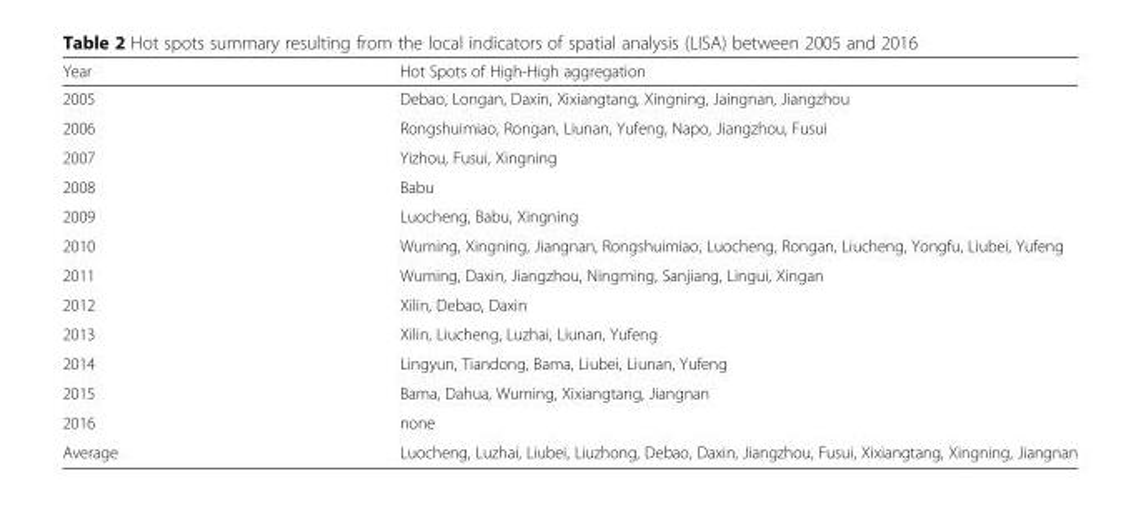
<table><thead><tr><td>Year</td><td>Hot Spots of High-High aggregation</td></tr></thead><tbody><tr><td>2005</td><td>Debao, Longan, Daxin, Xixiangtang, Xingning, Jaingnan, Jiangzhou</td></tr><tr><td>2006</td><td>Rongshuimiao, Rongan, Liunan, Yufeng, Napo, Jiangzhou, Fusui</td></tr><tr><td>2007</td><td>Yizhou, Fusui, Xingning</td></tr><tr><td>2008</td><td>Babu</td></tr><tr><td>2009</td><td>Luocheng, Babu, Xingning</td></tr><tr><td>2010</td><td>Wuming, Xingning, Jiangnan, Rongshuimiao, Luocheng, Rongan, Liucheng, Yongfu, Liubei, Yufeng</td></tr><tr><td>2011</td><td>Wuming, Daxin, Jiangzhou, Ningming, Sanjiang, Lingui, Xingan</td></tr><tr><td>2012</td><td>Xilin, Debao, Daxin</td></tr><tr><td>2013</td><td>Xilin, Liucheng, Luzhai, Liunan, Yufeng</td></tr><tr><td>2014</td><td>Lingyun, Tiandong, Bama, Liubei, Liunan, Yufeng</td></tr><tr><td>2015</td><td>Bama, Dahua, Wuming, Xixiangtang, Jiangnan</td></tr><tr><td>2016</td><td>none</td></tr><tr><td>Average</td><td>Luocheng, Luzhai, Liubei, Liuzhong, Debao, Daxin, Jiangzhou, Fusui, Xixiangtang, Xingning, Jiangnan</td></tr></tbody></table>